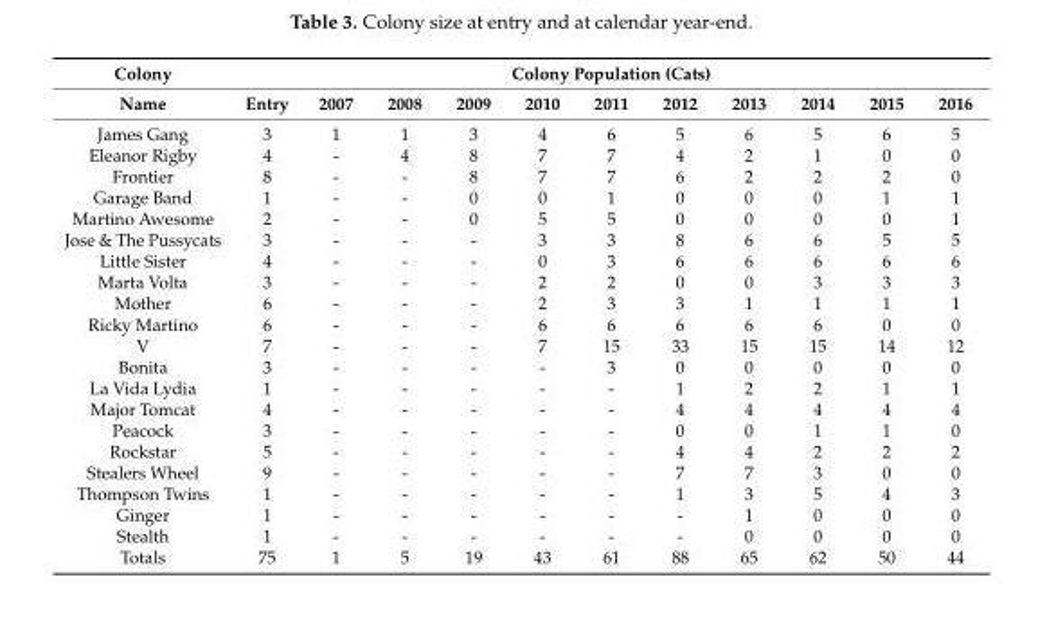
<table><thead><tr><td rowspan="2">Colony Name</td><td colspan="11">Colony Population (Cats)</td></tr><tr><td>Entry</td><td>2007</td><td>2008</td><td>2009</td><td>2010</td><td>2011</td><td>2012</td><td>2013</td><td>2014</td><td>2015</td><td>2016</td></tr></thead><tbody><tr><td>James Gang</td><td>3</td><td>1</td><td>1</td><td>3</td><td>4</td><td>6</td><td>5</td><td>6</td><td>5</td><td>6</td><td>5</td></tr><tr><td>Eleanor Rigby</td><td>4</td><td>-</td><td>4</td><td>8</td><td>7</td><td>7</td><td>4</td><td>2</td><td>1</td><td>0</td><td>0</td></tr><tr><td>Frontier</td><td>8</td><td>-</td><td>-</td><td>8</td><td>7</td><td>7</td><td>6</td><td>2</td><td>2</td><td>2</td><td>0</td></tr><tr><td>Garage Band</td><td>1</td><td>-</td><td>-</td><td>0</td><td>0</td><td>1</td><td>0</td><td>0</td><td>0</td><td>1</td><td>1</td></tr><tr><td>Martino Awesome</td><td>2</td><td>-</td><td>-</td><td>0</td><td>5</td><td>5</td><td>0</td><td>0</td><td>0</td><td>0</td><td>1</td></tr><tr><td>Jose &amp; The Pussycats</td><td>3</td><td>-</td><td>-</td><td>-</td><td>3</td><td>3</td><td>8</td><td>6</td><td>6</td><td>5</td><td>5</td></tr><tr><td>Little Sister</td><td>4</td><td>-</td><td>-</td><td>-</td><td>0</td><td>3</td><td>6</td><td>6</td><td>6</td><td>6</td><td>6</td></tr><tr><td>Marta Volta</td><td>3</td><td>-</td><td>-</td><td>-</td><td>2</td><td>2</td><td>0</td><td>0</td><td>3</td><td>3</td><td>3</td></tr><tr><td>Mother</td><td>6</td><td>-</td><td>-</td><td>-</td><td>2</td><td>3</td><td>3</td><td>1</td><td>1</td><td>1</td><td>1</td></tr><tr><td>Ricky Martino</td><td>6</td><td>-</td><td>-</td><td>-</td><td>6</td><td>6</td><td>6</td><td>6</td><td>6</td><td>0</td><td>0</td></tr><tr><td>V</td><td>7</td><td>-</td><td>-</td><td>-</td><td>7</td><td>15</td><td>33</td><td>15</td><td>15</td><td>14</td><td>12</td></tr><tr><td>Bonita</td><td>3</td><td>-</td><td>-</td><td>-</td><td>-</td><td>3</td><td>0</td><td>0</td><td>0</td><td>0</td><td>0</td></tr><tr><td>La Vida Lydia</td><td>1</td><td>-</td><td>-</td><td>-</td><td>-</td><td>-</td><td>1</td><td>2</td><td>2</td><td>1</td><td>1</td></tr><tr><td>Major Tomcat</td><td>4</td><td>-</td><td>-</td><td>-</td><td>-</td><td>-</td><td>4</td><td>4</td><td>4</td><td>4</td><td>4</td></tr><tr><td>Peacock</td><td>3</td><td>-</td><td>-</td><td>-</td><td>-</td><td>-</td><td>0</td><td>0</td><td>1</td><td>1</td><td>0</td></tr><tr><td>Rockstar</td><td>5</td><td>-</td><td>-</td><td>-</td><td>-</td><td>-</td><td>4</td><td>4</td><td>2</td><td>2</td><td>2</td></tr><tr><td>Stealers Wheel</td><td>9</td><td>-</td><td>-</td><td>-</td><td>-</td><td>-</td><td>7</td><td>7</td><td>3</td><td>0</td><td>0</td></tr><tr><td>Thompson Twins</td><td>1</td><td>-</td><td>-</td><td>-</td><td>-</td><td>-</td><td>1</td><td>3</td><td>5</td><td>4</td><td>3</td></tr><tr><td>Ginger</td><td>1</td><td>-</td><td>-</td><td>-</td><td>-</td><td>-</td><td>-</td><td>1</td><td>0</td><td>0</td><td>0</td></tr><tr><td>Stealth</td><td>1</td><td>-</td><td>-</td><td>-</td><td>-</td><td>-</td><td>-</td><td>0</td><td>0</td><td>0</td><td>0</td></tr><tr><td>Totals</td><td>75</td><td>1</td><td>5</td><td>19</td><td>43</td><td>61</td><td>88</td><td>65</td><td>62</td><td>50</td><td>44</td></tr></tbody></table>